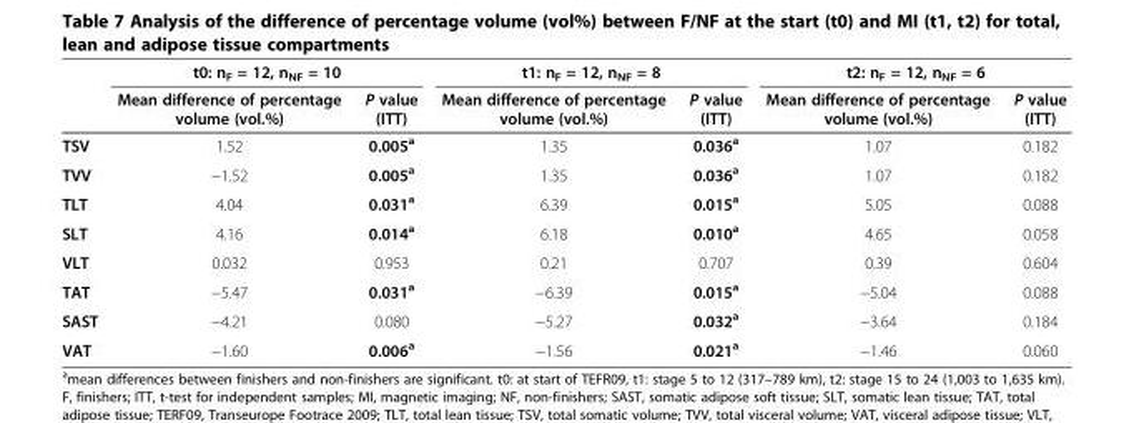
<table><thead><tr><td rowspan="2"></td><td colspan="2">t0: n<sub>F</sub> = 12, n<sub>NF</sub> = 10</td><td colspan="2">t1: n<sub>F</sub> = 12, n<sub>NF</sub> = 8</td><td colspan="2">t2: n<sub>F</sub> = 12, n<sub>NF</sub> = 6</td></tr><tr><td>Mean difference of percentage volume (vol.%)</td><td>P value (ITT)</td><td>Mean difference of percentage volume (vol.%)</td><td>P value (ITT)</td><td>Mean difference of percentage volume (vol.%)</td><td>P value (ITT)</td></tr></thead><tbody><tr><td>TSV</td><td>1.52</td><td>0.005<sup>a</sup></td><td>1.35</td><td>0.036<sup>a</sup></td><td>1.07</td><td>0.182</td></tr><tr><td>TVV</td><td>−1.52</td><td>0.005<sup>a</sup></td><td>1.35</td><td>0.036<sup>a</sup></td><td>1.07</td><td>0.182</td></tr><tr><td>TLT</td><td>4.04</td><td>0.031<sup>a</sup></td><td>6.39</td><td>0.015<sup>a</sup></td><td>5.05</td><td>0.088</td></tr><tr><td>SLT</td><td>4.16</td><td>0.014<sup>a</sup></td><td>6.18</td><td>0.010<sup>a</sup></td><td>4.65</td><td>0.058</td></tr><tr><td>VLT</td><td>0.032</td><td>0.953</td><td>0.21</td><td>0.707</td><td>0.39</td><td>0.604</td></tr><tr><td>TAT</td><td>−5.47</td><td>0.031<sup>a</sup></td><td>−6.39</td><td>0.015<sup>a</sup></td><td>−5.04</td><td>0.088</td></tr><tr><td>SAST</td><td>−4.21</td><td>0.080</td><td>−5.27</td><td>0.032<sup>a</sup></td><td>−3.64</td><td>0.184</td></tr><tr><td>VAT</td><td>−1.60</td><td>0.006<sup>a</sup></td><td>−1.56</td><td>0.021<sup>a</sup></td><td>−1.46</td><td>0.060</td></tr></tbody></table>